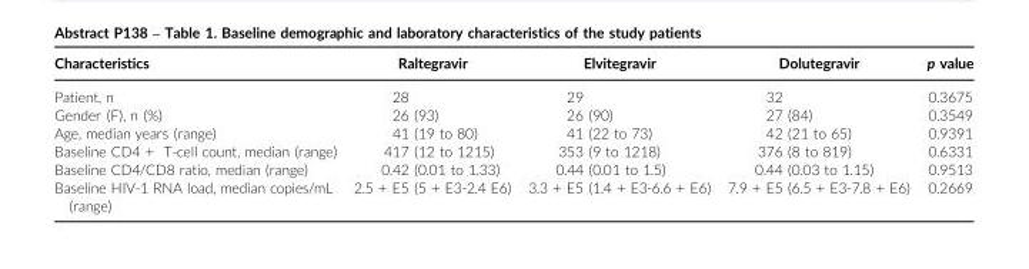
<table><thead><tr><td>Characteristics</td><td>Raltegravir</td><td>Elvitegravir</td><td>Dolutegravir</td><td>p value</td></tr></thead><tbody><tr><td>Patient, n</td><td>28</td><td>29</td><td>32</td><td>0.3675</td></tr><tr><td>Gender (F), n (%)</td><td>26 (93)</td><td>26 (90)</td><td>27 (84)</td><td>0.3549</td></tr><tr><td>Age, median years (range)</td><td>41 (19 to 80)</td><td>41 (22 to 73)</td><td>42 (21 to 65)</td><td>0.9391</td></tr><tr><td>Baseline CD4 + T-cell count, median (range)</td><td>417 (12 to 1215)</td><td>353 (9 to 1218)</td><td>376 (8 to 819)</td><td>0.6331</td></tr><tr><td>Baseline CD4/CD8 ratio, median (range)</td><td>0.42 (0.01 to 1.33)</td><td>0.44 (0.01 to 1.5)</td><td>0.44 (0.03 to 1.15)</td><td>0.9513</td></tr><tr><td>Baseline HIV-1 RNA load, median copies/mL (range)</td><td>2.5 + E5 (5 + E3-2.4 E6)</td><td>3.3 + E5 (1.4 + E3-6.6 + E6)</td><td>7.9 + E5 (6.5 + E3-7.8 + E6)</td><td>0.2669</td></tr></tbody></table>